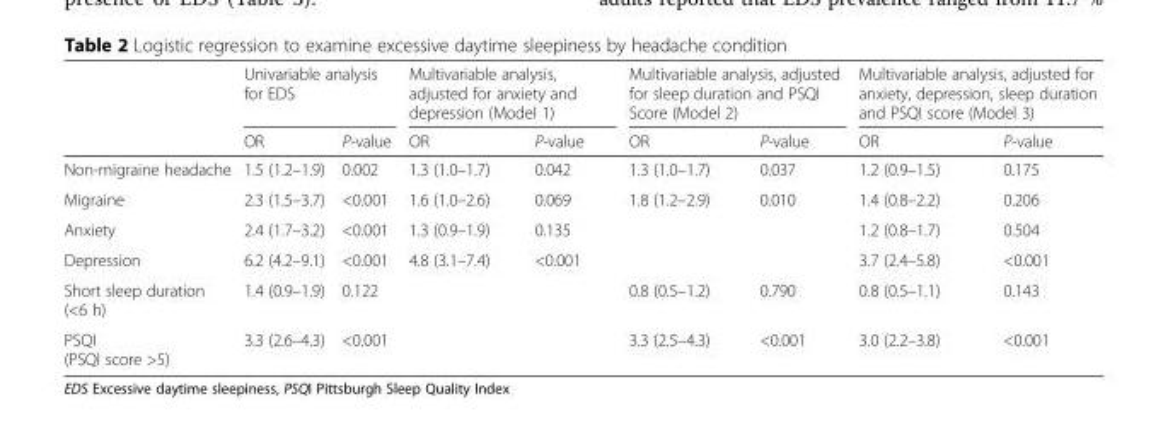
<table><thead><tr><td rowspan="2"></td><td colspan="2">Univariable analysis for EDS</td><td colspan="2">Multivariable analysis, adjusted for anxiety and depression (Model 1)</td><td colspan="2">Multivariable analysis, adjusted for sleep duration and PSQI Score (Model 2)</td><td colspan="2">Multivariable analysis, adjusted for anxiety, depression, sleep duration and PSQI score (Model 3)</td></tr><tr><td>OR</td><td>P-value</td><td>OR</td><td>P-value</td><td>OR</td><td>P-value</td><td>OR</td><td>P-value</td></tr></thead><tbody><tr><td>Non-migraine headache</td><td>1.5 (1.2–1.9)</td><td>0.002</td><td>1.3 (1.0–1.7)</td><td>0.042</td><td>1.3 (1.0–1.7)</td><td>0.037</td><td>1.2 (0.9–1.5)</td><td>0.175</td></tr><tr><td>Migraine</td><td>2.3 (1.5–3.7)</td><td>&lt;0.001</td><td>1.6 (1.0–2.6)</td><td>0.069</td><td>1.8 (1.2–2.9)</td><td>0.010</td><td>1.4 (0.8–2.2)</td><td>0.206</td></tr><tr><td>Anxiety</td><td>2.4 (1.7–3.2)</td><td>&lt;0.001</td><td>1.3 (0.9–1.9)</td><td>0.135</td><td></td><td></td><td>1.2 (0.8–1.7)</td><td>0.504</td></tr><tr><td>Depression</td><td>6.2 (4.2–9.1)</td><td>&lt;0.001</td><td>4.8 (3.1–7.4)</td><td>&lt;0.001</td><td></td><td></td><td>3.7 (2.4–5.8)</td><td>&lt;0.001</td></tr><tr><td>Short sleep duration (&lt;6 h)</td><td>1.4 (0.9–1.9)</td><td>0.122</td><td></td><td></td><td>0.8 (0.5–1.2)</td><td>0.790</td><td>0.8 (0.5–1.1)</td><td>0.143</td></tr><tr><td>PSQI (PSQI score &gt;5)</td><td>3.3 (2.6–4.3)</td><td>&lt;0.001</td><td></td><td></td><td>3.3 (2.5–4.3)</td><td>&lt;0.001</td><td>3.0 (2.2–3.8)</td><td>&lt;0.001</td></tr></tbody></table>